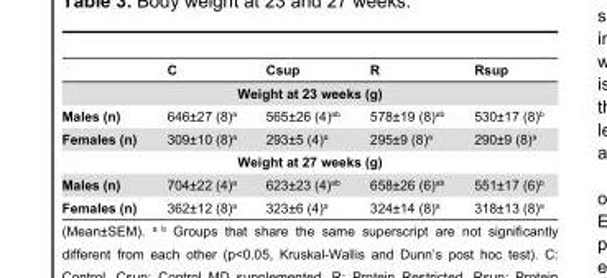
<table><thead><tr><td></td><td>C</td><td>Csup</td><td>R</td><td>Rsup</td></tr></thead><tbody><tr><td colspan="5">Weight at 23 weeks (g)</td></tr><tr><td>Males (n)</td><td>646±27 (8)<sup>a</sup></td><td>565±26 (4)<sup>ab</sup></td><td>578±19 (8)<sup>ab</sup></td><td>530±17 (8)<sup>b</sup></td></tr><tr><td>Females (n)</td><td>309±10 (8)<sup>a</sup></td><td>293±5 (4)<sup>a</sup></td><td>295±9 (8)<sup>a</sup></td><td>290±9 (8)<sup>a</sup></td></tr><tr><td colspan="5">Weight at 27 weeks (g)</td></tr><tr><td>Males (n)</td><td>704±22 (4)<sup>a</sup></td><td>623±23 (4)<sup>ab</sup></td><td>658±26 (6)<sup>ab</sup></td><td>551±17 (6)<sup>b</sup></td></tr><tr><td>Females (n)</td><td>362±12 (8)<sup>a</sup></td><td>323±6 (4)<sup>a</sup></td><td>324±14 (8)<sup>a</sup></td><td>318±13 (8)<sup>a</sup></td></tr></tbody></table>